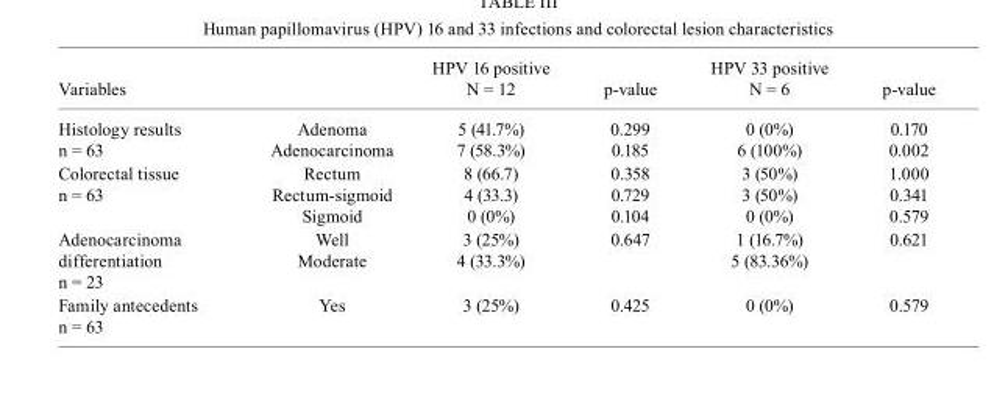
<table><thead><tr><td colspan="2">Variables</td><td rowspan="2">HPV 16 positive N = 12 5 (41.7%) 7 (58.3%)</td><td rowspan="2">p-value 0.299 0.185</td><td rowspan="2">HPV 33 positive N = 6 0 (0%) 6 (100%)</td><td rowspan="2">p-value 0.170 0.002</td></tr><tr><td>Histology results n = 63</td><td>Adenoma Adenocarcinoma</td></tr></thead><tbody><tr><td>Colorectal tissue n = 63</td><td>Rectum Rectum-sigmoid Sigmoid</td><td>8 (66.7) 4 (33.3) 0 (0%)</td><td>0.358 0.729 0.104</td><td>3 (50%) 3 (50%) 0 (0%)</td><td>1.000 0.341 0.579</td></tr><tr><td>Adenocarcinoma differentiation n = 23</td><td>Well Moderate</td><td>3 (25%) 4 (33.3%)</td><td>0.647</td><td>1 (16.7%) 5 (83.36%)</td><td>0.621</td></tr><tr><td>Family antecedents n = 63</td><td>Yes</td><td>3 (25%)</td><td>0.425</td><td>0 (0%)</td><td>0.579</td></tr></tbody></table>